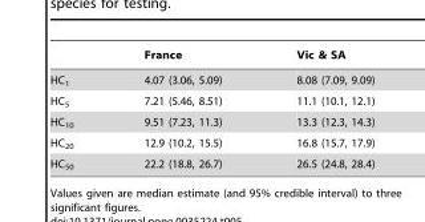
<table><thead><tr><td></td><td>France</td><td>Vic &amp; SA</td></tr></thead><tbody><tr><td>HC<sub>1</sub></td><td>4.07 (3.06, 5.09)</td><td>8.08 (7.09, 9.09)</td></tr><tr><td>HC<sub>5</sub></td><td>7.21 (5.46, 8.51)</td><td>11.1 (10.1, 12.1)</td></tr><tr><td>HC<sub>10</sub></td><td>9.51 (7.23, 11.3)</td><td>13.3 (12.3, 14.3)</td></tr><tr><td>HC<sub>20</sub></td><td>12.9 (10.2, 15.5)</td><td>16.8 (15.7, 17.9)</td></tr><tr><td>HC<sub>50</sub></td><td>22.2 (18.8, 26.7)</td><td>26.5 (24.8, 28.4)</td></tr></tbody></table>